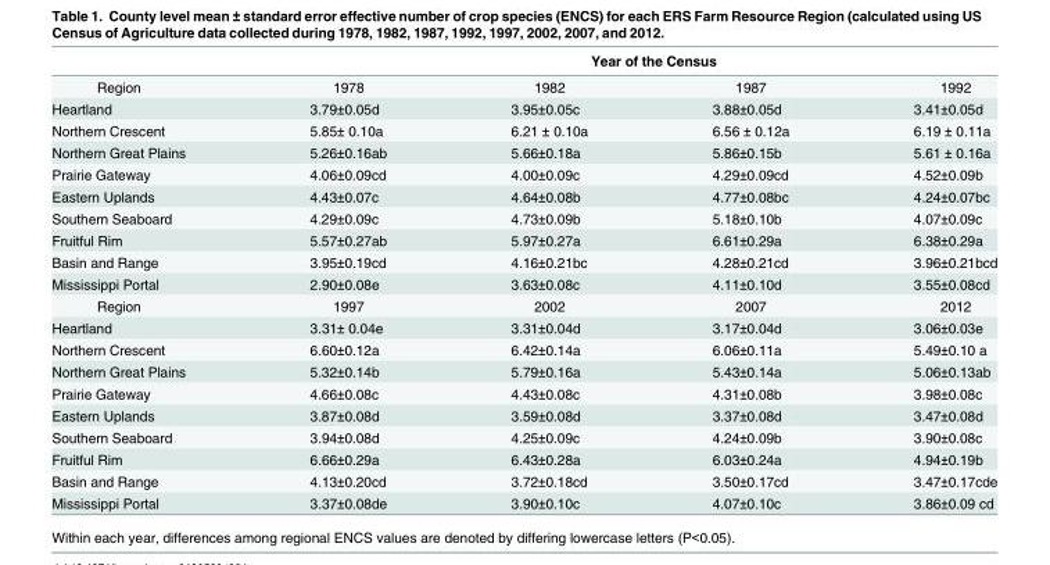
<table><thead><tr><td rowspan="2">Region</td><td colspan="4">Year of the Census</td></tr><tr><td>1978</td><td>1982</td><td>1987</td><td>1992</td></tr></thead><tbody><tr><td>Heartland</td><td>3.79±0.05d</td><td>3.95±0.05c</td><td>3.88±0.05d</td><td>3.41±0.05d</td></tr><tr><td>Northern Crescent</td><td>5.85± 0.10a</td><td>6.21 ± 0.10a</td><td>6.56 ± 0.12a</td><td>6.19 ± 0.11a</td></tr><tr><td>Northern Great Plains</td><td>5.26±0.16ab</td><td>5.66±0.18a</td><td>5.86±0.15b</td><td>5.61 ± 0.16a</td></tr><tr><td>Prairie Gateway</td><td>4.06±0.09cd</td><td>4.00±0.09c</td><td>4.29±0.09cd</td><td>4.52±0.09b</td></tr><tr><td>Eastern Uplands</td><td>4.43±0.07c</td><td>4.64±0.08b</td><td>4.77±0.08bc</td><td>4.24±0.07bc</td></tr><tr><td>Southern Seaboard</td><td>4.29±0.09c</td><td>4.73±0.09b</td><td>5.18±0.10b</td><td>4.07±0.09c</td></tr><tr><td>Fruitful Rim</td><td>5.57±0.27ab</td><td>5.97±0.27a</td><td>6.61±0.29a</td><td>6.38±0.29a</td></tr><tr><td>Basin and Range</td><td>3.95±0.19cd</td><td>4.16±0.21bc</td><td>4.28±0.21cd</td><td>3.96±0.21bcd</td></tr><tr><td>Mississippi Portal</td><td>2.90±0.08e</td><td>3.63±0.08c</td><td>4.11±0.10d</td><td>3.55±0.08cd</td></tr><tr><td>Region</td><td>1997</td><td>2002</td><td>2007</td><td>2012</td></tr><tr><td>Heartland</td><td>3.31± 0.04e</td><td>3.31±0.04d</td><td>3.17±0.04d</td><td>3.06±0.03e</td></tr><tr><td>Northern Crescent</td><td>6.60±0.12a</td><td>6.42±0.14a</td><td>6.06±0.11a</td><td>5.49±0.10 a</td></tr><tr><td>Northern Great Plains</td><td>5.32±0.14b</td><td>5.79±0.16a</td><td>5.43±0.14a</td><td>5.06±0.13ab</td></tr><tr><td>Prairie Gateway</td><td>4.66±0.08c</td><td>4.43±0.08c</td><td>4.31±0.08b</td><td>3.98±0.08c</td></tr><tr><td>Eastern Uplands</td><td>3.87±0.08d</td><td>3.59±0.08d</td><td>3.37±0.08d</td><td>3.47±0.08d</td></tr><tr><td>Southern Seaboard</td><td>3.94±0.08d</td><td>4.25±0.09c</td><td>4.24±0.09b</td><td>3.90±0.08c</td></tr><tr><td>Fruitful Rim</td><td>6.66±0.29a</td><td>6.43±0.28a</td><td>6.03±0.24a</td><td>4.94±0.19b</td></tr><tr><td>Basin and Range</td><td>4.13±0.20cd</td><td>3.72±0.18cd</td><td>3.50±0.17cd</td><td>3.47±0.17cde</td></tr><tr><td>Mississippi Portal</td><td>3.37±0.08de</td><td>3.90±0.10c</td><td>4.07±0.10c</td><td>3.86±0.09 cd</td></tr></tbody></table>